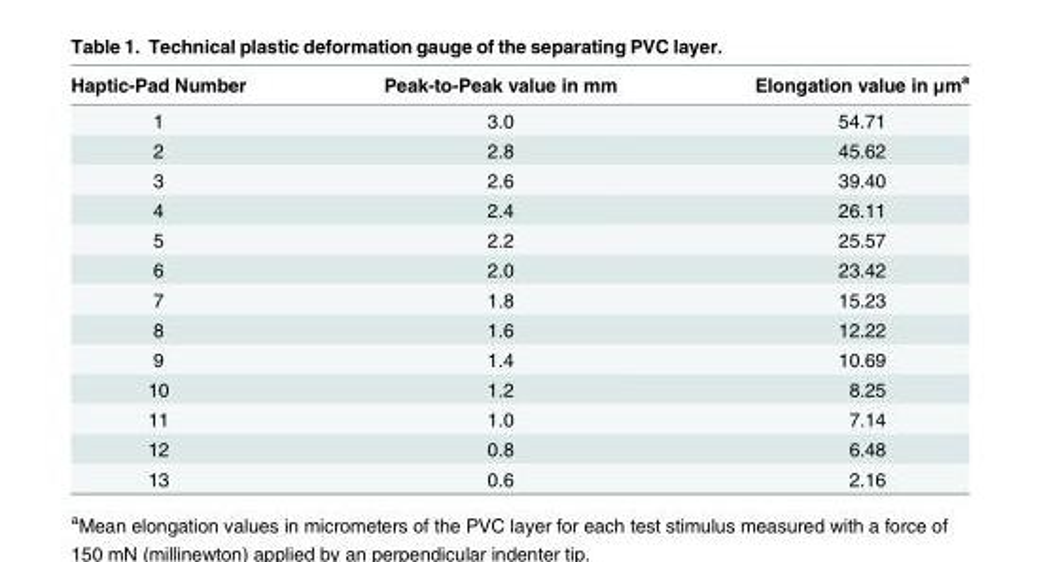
<table><thead><tr><td>Haptic-Pad Number</td><td>Peak-to-Peak value in mm</td><td>Elongation value in μm<sup>a</sup></td></tr></thead><tbody><tr><td>1</td><td>3.0</td><td>54.71</td></tr><tr><td>2</td><td>2.8</td><td>45.62</td></tr><tr><td>3</td><td>2.6</td><td>39.40</td></tr><tr><td>4</td><td>2.4</td><td>26.11</td></tr><tr><td>5</td><td>2.2</td><td>25.57</td></tr><tr><td>6</td><td>2.0</td><td>23.42</td></tr><tr><td>7</td><td>1.8</td><td>15.23</td></tr><tr><td>8</td><td>1.6</td><td>12.22</td></tr><tr><td>9</td><td>1.4</td><td>10.69</td></tr><tr><td>10</td><td>1.2</td><td>8.25</td></tr><tr><td>11</td><td>1.0</td><td>7.14</td></tr><tr><td>12</td><td>0.8</td><td>6.48</td></tr><tr><td>13</td><td>0.6</td><td>2.16</td></tr></tbody></table>